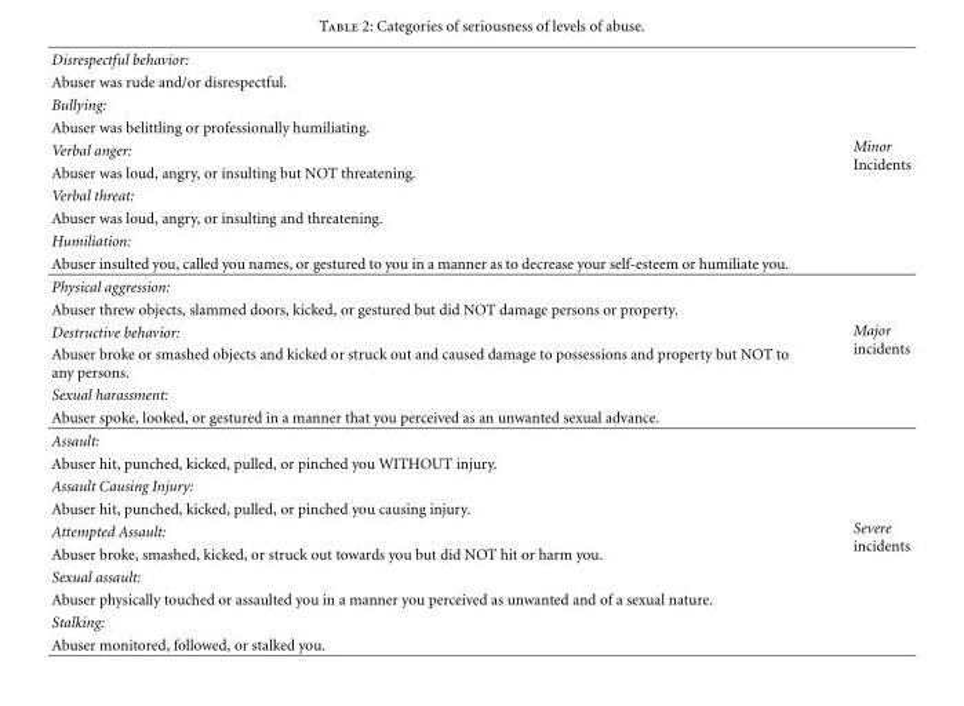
<table><tbody><tr><td>Disrespectful behavior:</td><td rowspan="10">Minor Incidents</td></tr><tr><td>Abuser was rude and/or disrespectful.</td></tr><tr><td>Bullying:</td></tr><tr><td>Abuser was belittling or professionally humiliating.</td></tr><tr><td>Verbal anger:</td></tr><tr><td>Abuser was loud, angry, or insulting but NOT threatening.</td></tr><tr><td>Verbal threat:</td></tr><tr><td>Abuser was loud, angry, or insulting and threatening.</td></tr><tr><td>Humiliation:</td></tr><tr><td>Abuser insulted you, called you names, or gestured to you in a manner as to decrease your self-esteem or humiliate you.</td></tr><tr><td>Physical aggression:</td><td rowspan="6">Major incidents</td></tr><tr><td>Abuser threw objects, slammed doors, kicked, or gestured but did NOT damage persons or property.</td></tr><tr><td>Destructive behavior:</td></tr><tr><td>Abuser broke or smashed objects and kicked or struck out and caused damage to possessions and property but NOT to any persons.</td></tr><tr><td>Sexual harassment:</td></tr><tr><td>Abuser spoke, looked, or gestured in a manner that you perceived as an unwanted sexual advance.</td></tr><tr><td>Assault:</td><td rowspan="10">Severe incidents</td></tr><tr><td>Abuser hit, punched, kicked, pulled, or pinched you WITHOUT injury.</td></tr><tr><td>Assault Causing Injury:</td></tr><tr><td>Abuser hit, punched, kicked, pulled, or pinched you causing injury.</td></tr><tr><td>Attempted Assault:</td></tr><tr><td>Abuser broke, smashed, kicked, or struck out towards you but did NOT hit or harm you.</td></tr><tr><td>Sexual assault:</td></tr><tr><td>Abuser physically touched or assaulted you in a manner you perceived as unwanted and of a sexual nature.</td></tr><tr><td>Stalking:</td></tr><tr><td>Abuser monitored, followed, or stalked you.</td></tr></tbody></table>